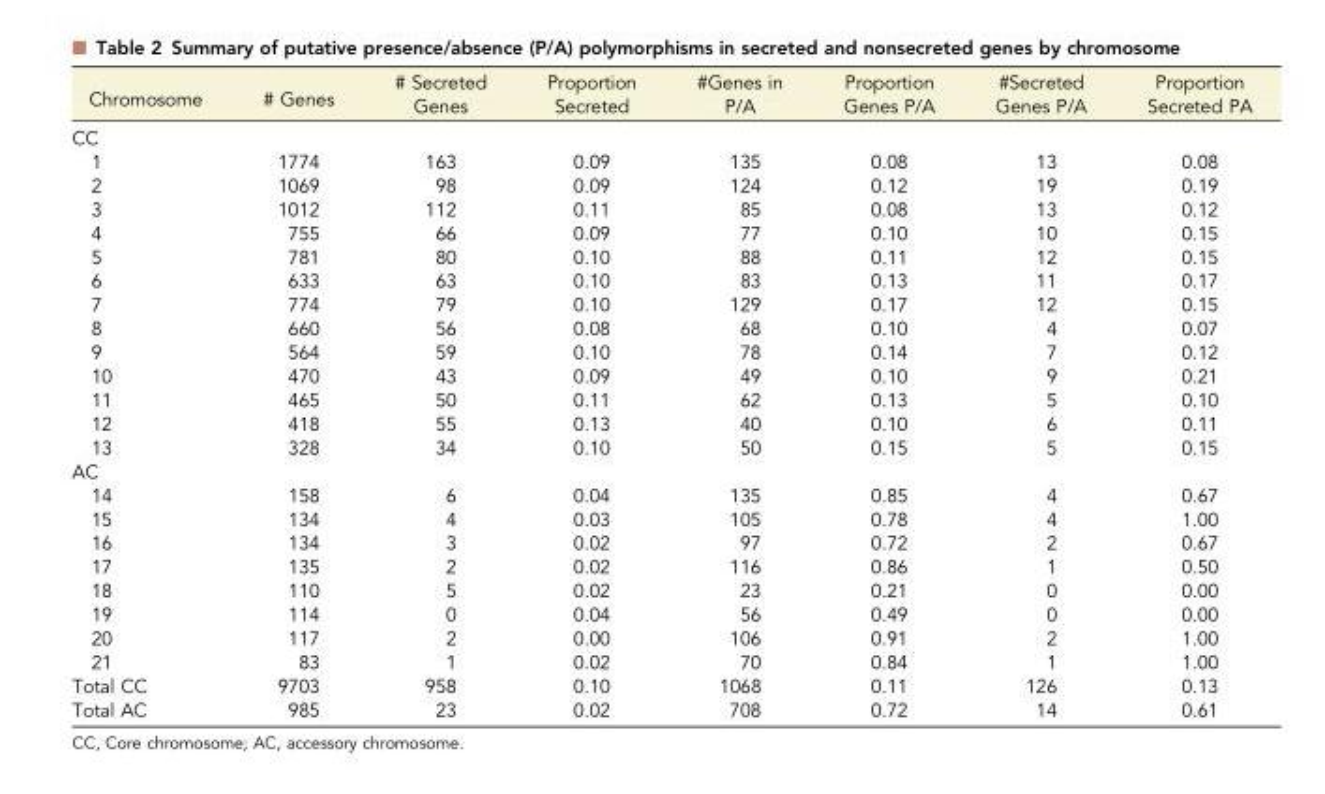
<table><thead><tr><td>Chromosome</td><td># Genes</td><td># Secreted Genes</td><td>Proportion Secreted</td><td>#Genes in P/A</td><td>Proportion Genes P/A</td><td>#Secreted Genes P/A</td><td>Proportion Secreted PA</td></tr></thead><tbody><tr><td colspan="8">CC</td></tr><tr><td>1</td><td>1774</td><td>163</td><td>0.09</td><td>135</td><td>0.08</td><td>13</td><td>0.08</td></tr><tr><td>2</td><td>1069</td><td>98</td><td>0.09</td><td>124</td><td>0.12</td><td>19</td><td>0.19</td></tr><tr><td>3</td><td>1012</td><td>112</td><td>0.11</td><td>85</td><td>0.08</td><td>13</td><td>0.12</td></tr><tr><td>4</td><td>755</td><td>66</td><td>0.09</td><td>77</td><td>0.10</td><td>10</td><td>0.15</td></tr><tr><td>5</td><td>781</td><td>80</td><td>0.10</td><td>88</td><td>0.11</td><td>12</td><td>0.15</td></tr><tr><td>6</td><td>633</td><td>63</td><td>0.10</td><td>83</td><td>0.13</td><td>11</td><td>0.17</td></tr><tr><td>7</td><td>774</td><td>79</td><td>0.10</td><td>129</td><td>0.17</td><td>12</td><td>0.15</td></tr><tr><td>8</td><td>660</td><td>56</td><td>0.08</td><td>68</td><td>0.10</td><td>4</td><td>0.07</td></tr><tr><td>9</td><td>564</td><td>59</td><td>0.10</td><td>78</td><td>0.14</td><td>7</td><td>0.12</td></tr><tr><td>10</td><td>470</td><td>43</td><td>0.09</td><td>49</td><td>0.10</td><td>9</td><td>0.21</td></tr><tr><td>11</td><td>465</td><td>50</td><td>0.11</td><td>62</td><td>0.13</td><td>5</td><td>0.10</td></tr><tr><td>12</td><td>418</td><td>55</td><td>0.13</td><td>40</td><td>0.10</td><td>6</td><td>0.11</td></tr><tr><td>13</td><td>328</td><td>34</td><td>0.10</td><td>50</td><td>0.15</td><td>5</td><td>0.15</td></tr><tr><td colspan="8">AC</td></tr><tr><td>14</td><td>158</td><td>6</td><td>0.04</td><td>135</td><td>0.85</td><td>4</td><td>0.67</td></tr><tr><td>15</td><td>134</td><td>4</td><td>0.03</td><td>105</td><td>0.78</td><td>4</td><td>1.00</td></tr><tr><td>16</td><td>134</td><td>3</td><td>0.02</td><td>97</td><td>0.72</td><td>2</td><td>0.67</td></tr><tr><td>17</td><td>135</td><td>2</td><td>0.02</td><td>116</td><td>0.86</td><td>1</td><td>0.50</td></tr><tr><td>18</td><td>110</td><td>5</td><td>0.02</td><td>23</td><td>0.21</td><td>0</td><td>0.00</td></tr><tr><td>19</td><td>114</td><td>0</td><td>0.04</td><td>56</td><td>0.49</td><td>0</td><td>0.00</td></tr><tr><td>20</td><td>117</td><td>2</td><td>0.00</td><td>106</td><td>0.91</td><td>2</td><td>1.00</td></tr><tr><td>21</td><td>83</td><td>1</td><td>0.02</td><td>70</td><td>0.84</td><td>1</td><td>1.00</td></tr><tr><td>Total CC</td><td>9703</td><td>958</td><td>0.10</td><td>1068</td><td>0.11</td><td>126</td><td>0.13</td></tr><tr><td>Total AC</td><td>985</td><td>23</td><td>0.02</td><td>708</td><td>0.72</td><td>14</td><td>0.61</td></tr></tbody></table>